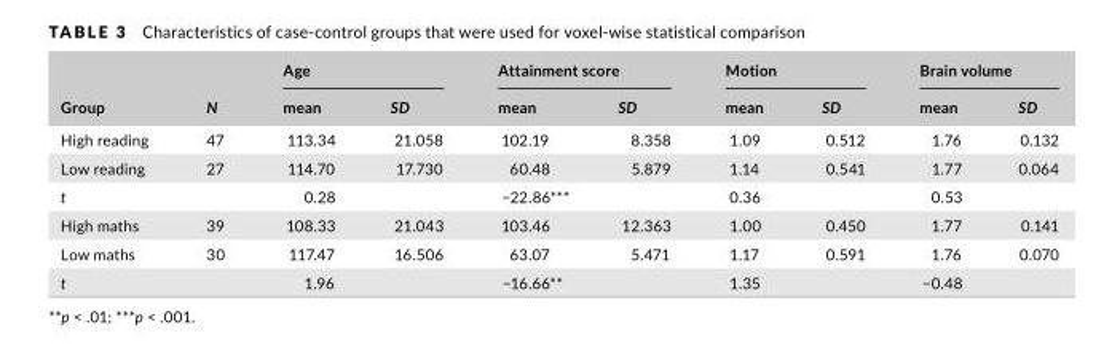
<table><thead><tr><td rowspan="2">Group</td><td rowspan="2">N</td><td colspan="2">Age</td><td colspan="2">Attainment score</td><td colspan="2">Motion</td><td colspan="2">Brain volume</td></tr><tr><td>mean</td><td>SD</td><td>mean</td><td>SD</td><td>mean</td><td>SD</td><td>mean</td><td>SD</td></tr></thead><tbody><tr><td>High reading</td><td>47</td><td>113.34</td><td>21.058</td><td>102.19</td><td>8.358</td><td>1.09</td><td>0.512</td><td>1.76</td><td>0.132</td></tr><tr><td>Low reading</td><td>27</td><td>114.70</td><td>17.730</td><td>60.48</td><td>5.879</td><td>1.14</td><td>0.541</td><td>1.77</td><td>0.064</td></tr><tr><td>t</td><td></td><td>0.28</td><td></td><td>−22.86***</td><td></td><td>0.36</td><td></td><td>0.53</td><td></td></tr><tr><td>High maths</td><td>39</td><td>108.33</td><td>21.043</td><td>103.46</td><td>12.363</td><td>1.00</td><td>0.450</td><td>1.77</td><td>0.141</td></tr><tr><td>Low maths</td><td>30</td><td>117.47</td><td>16.506</td><td>63.07</td><td>5.471</td><td>1.17</td><td>0.591</td><td>1.76</td><td>0.070</td></tr><tr><td>t</td><td></td><td>1.96</td><td></td><td>−16.66**</td><td></td><td>1.35</td><td></td><td>−0.48</td><td></td></tr></tbody></table>